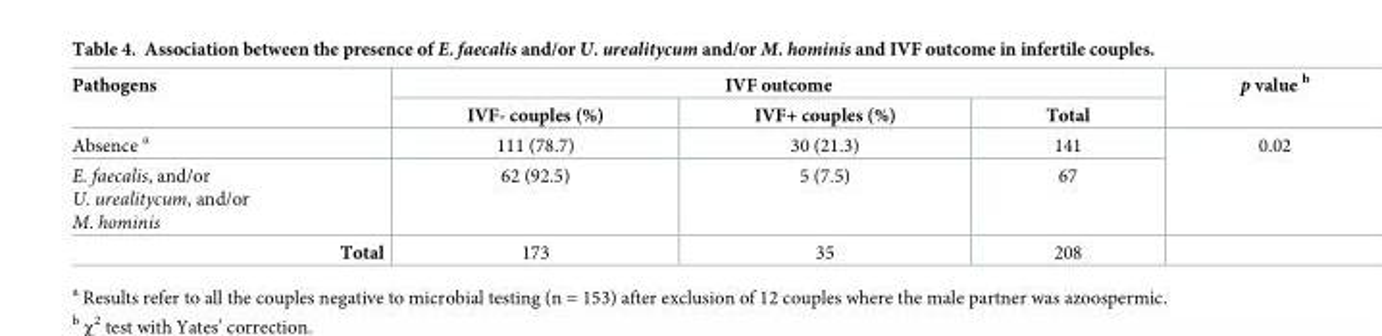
<table><thead><tr><td rowspan="2">Pathogens</td><td colspan="3">IVF outcome</td><td rowspan="2">p value <sup>b</sup></td></tr><tr><td>IVF- couples (%)</td><td>IVF+ couples (%)</td><td>Total</td></tr></thead><tbody><tr><td>Absence <sup>a</sup></td><td>111 (78.7)</td><td>30 (21.3)</td><td>141</td><td rowspan="2">0.02</td></tr><tr><td>E. faecalis, and/or U. urealitycum, and/or M. hominis</td><td>62 (92.5)</td><td>5 (7.5)</td><td>67</td></tr><tr><td>Total</td><td>173</td><td>35</td><td>208</td><td></td></tr></tbody></table>